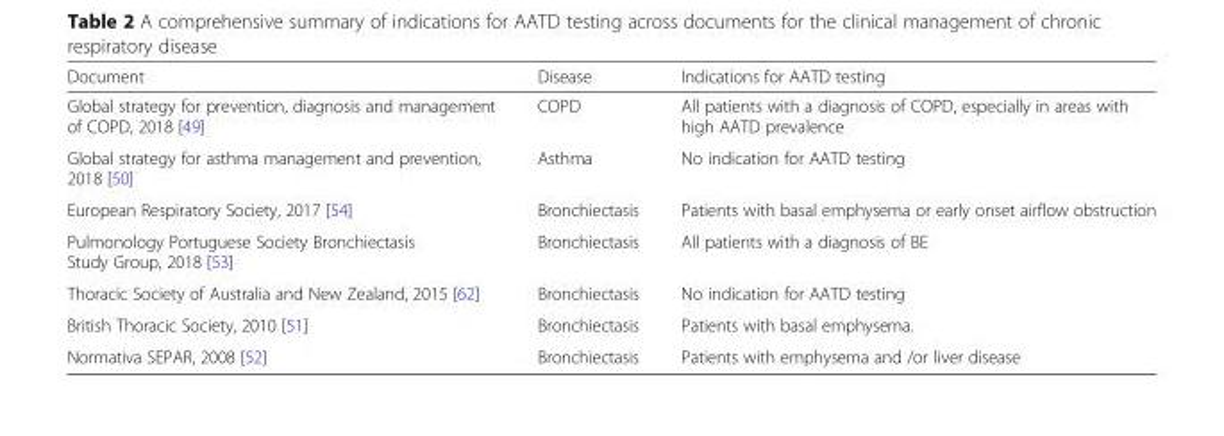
<table><thead><tr><td>Document</td><td>Disease</td><td>Indications for AATD testing</td></tr></thead><tbody><tr><td>Global strategy for prevention, diagnosis and management of COPD, 2018 [49]</td><td>COPD</td><td>All patients with a diagnosis of COPD, especially in areas with high AATD prevalence</td></tr><tr><td>Global strategy for asthma management and prevention, 2018 [50]</td><td>Asthma</td><td>No indication for AATD testing</td></tr><tr><td>European Respiratory Society, 2017 [54]</td><td>Bronchiectasis</td><td>Patients with basal emphysema or early onset airflow obstruction</td></tr><tr><td>Pulmonology Portuguese Society Bronchiectasis Study Group, 2018 [53]</td><td>Bronchiectasis</td><td>All patients with a diagnosis of BE</td></tr><tr><td>Thoracic Society of Australia and New Zealand, 2015 [62]</td><td>Bronchiectasis</td><td>No indication for AATD testing</td></tr><tr><td>British Thoracic Society, 2010 [51]</td><td>Bronchiectasis</td><td>Patients with basal emphysema.</td></tr><tr><td>Normativa SEPAR, 2008 [52]</td><td>Bronchiectasis</td><td>Patients with emphysema and /or liver disease</td></tr></tbody></table>